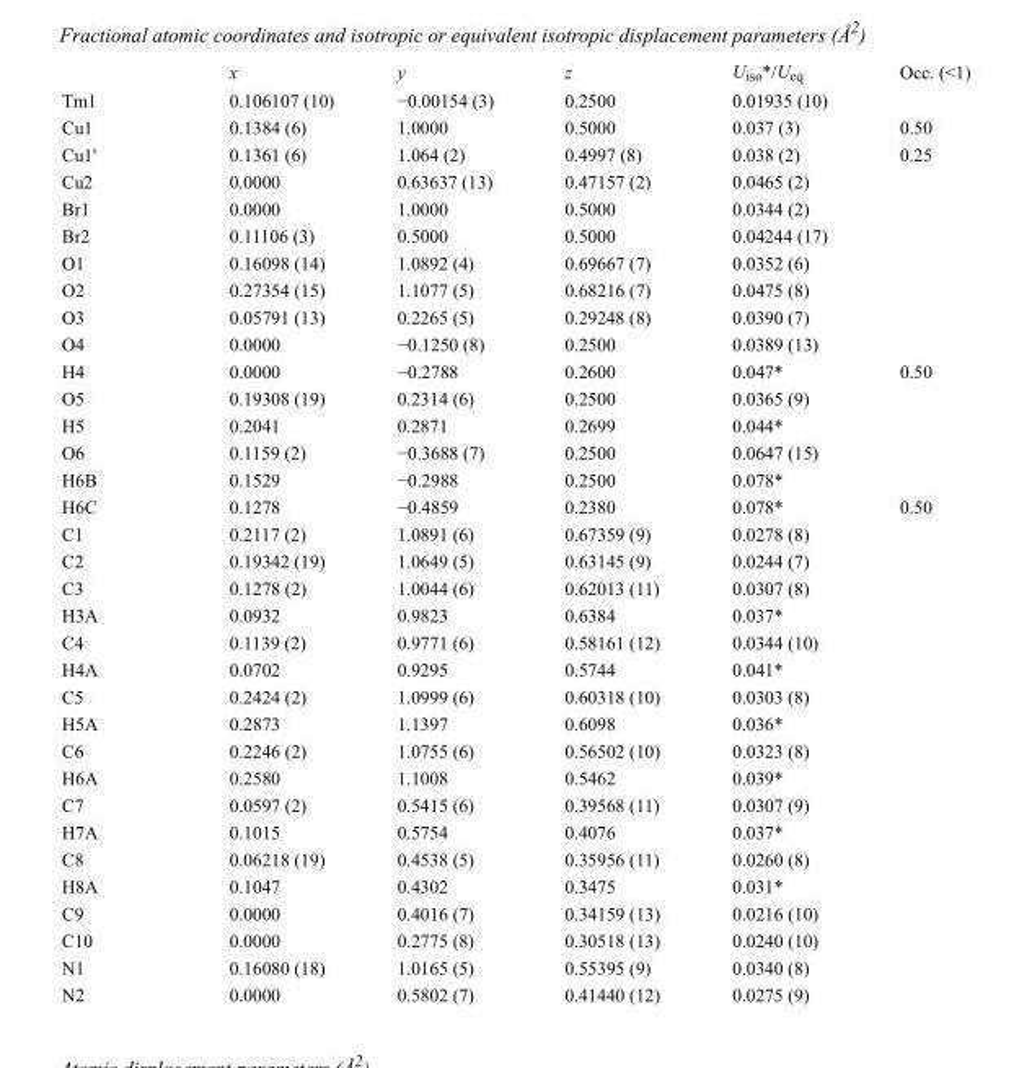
<table><thead><tr><td></td><td>x</td><td>y</td><td>z</td><td>U<sub>iso</sub>*/U<sub>eq</sub></td><td>Occ. (&lt;1)</td></tr></thead><tbody><tr><td>Tm1</td><td>0.106107 (10)</td><td>−0.00154 (3)</td><td>0.2500</td><td>0.01935 (10)</td><td></td></tr><tr><td>Cu1</td><td>0.1384 (6)</td><td>1.0000</td><td>0.5000</td><td>0.037 (3)</td><td>0.50</td></tr><tr><td>Cu1&#x27;</td><td>0.1361 (6)</td><td>1.064 (2)</td><td>0.4997 (8)</td><td>0.038 (2)</td><td>0.25</td></tr><tr><td>Cu2</td><td>0.0000</td><td>0.63637 (13)</td><td>0.47157 (2)</td><td>0.0465 (2)</td><td></td></tr><tr><td>Br1</td><td>0.0000</td><td>1.0000</td><td>0.5000</td><td>0.0344 (2)</td><td></td></tr><tr><td>Br2</td><td>0.11106 (3)</td><td>0.5000</td><td>0.5000</td><td>0.04244 (17)</td><td></td></tr><tr><td>O1</td><td>0.16098 (14)</td><td>1.0892 (4)</td><td>0.69667 (7)</td><td>0.0352 (6)</td><td></td></tr><tr><td>O2</td><td>0.27354 (15)</td><td>1.1077 (5)</td><td>0.68216 (7)</td><td>0.0475 (8)</td><td></td></tr><tr><td>O3</td><td>0.05791 (13)</td><td>0.2265 (5)</td><td>0.29248 (8)</td><td>0.0390 (7)</td><td></td></tr><tr><td>O4</td><td>0.0000</td><td>−0.1250 (8)</td><td>0.2500</td><td>0.0389 (13)</td><td></td></tr><tr><td>H4</td><td>0.0000</td><td>−0.2788</td><td>0.2600</td><td>0.047*</td><td>0.50</td></tr><tr><td>O5</td><td>0.19308 (19)</td><td>0.2314 (6)</td><td>0.2500</td><td>0.0365 (9)</td><td></td></tr><tr><td>H5</td><td>0.2041</td><td>0.2871</td><td>0.2699</td><td>0.044*</td><td></td></tr><tr><td>O6</td><td>0.1159 (2)</td><td>−0.3688 (7)</td><td>0.2500</td><td>0.0647 (15)</td><td></td></tr><tr><td>H6B</td><td>0.1529</td><td>−0.2988</td><td>0.2500</td><td>0.078*</td><td></td></tr><tr><td>H6C</td><td>0.1278</td><td>−0.4859</td><td>0.2380</td><td>0.078*</td><td>0.50</td></tr><tr><td>C1</td><td>0.2117 (2)</td><td>1.0891 (6)</td><td>0.67359 (9)</td><td>0.0278 (8)</td><td></td></tr><tr><td>C2</td><td>0.19342 (19)</td><td>1.0649 (5)</td><td>0.63145 (9)</td><td>0.0244 (7)</td><td></td></tr><tr><td>C3</td><td>0.1278 (2)</td><td>1.0044 (6)</td><td>0.62013 (11)</td><td>0.0307 (8)</td><td></td></tr><tr><td>H3A</td><td>0.0932</td><td>0.9823</td><td>0.6384</td><td>0.037*</td><td></td></tr><tr><td>C4</td><td>0.1139 (2)</td><td>0.9771 (6)</td><td>0.58161 (12)</td><td>0.0344 (10)</td><td></td></tr><tr><td>H4A</td><td>0.0702</td><td>0.9295</td><td>0.5744</td><td>0.041*</td><td></td></tr><tr><td>C5</td><td>0.2424 (2)</td><td>1.0999 (6)</td><td>0.60318 (10)</td><td>0.0303 (8)</td><td></td></tr><tr><td>H5A</td><td>0.2873</td><td>1.1397</td><td>0.6098</td><td>0.036*</td><td></td></tr><tr><td>C6</td><td>0.2246 (2)</td><td>1.0755 (6)</td><td>0.56502 (10)</td><td>0.0323 (8)</td><td></td></tr><tr><td>H6A</td><td>0.2580</td><td>1.1008</td><td>0.5462</td><td>0.039*</td><td></td></tr><tr><td>C7</td><td>0.0597 (2)</td><td>0.5415 (6)</td><td>0.39568 (11)</td><td>0.0307 (9)</td><td></td></tr><tr><td>H7A</td><td>0.1015</td><td>0.5754</td><td>0.4076</td><td>0.037*</td><td></td></tr><tr><td>C8</td><td>0.06218 (19)</td><td>0.4538 (5)</td><td>0.35956 (11)</td><td>0.0260 (8)</td><td></td></tr><tr><td>H8A</td><td>0.1047</td><td>0.4302</td><td>0.3475</td><td>0.031*</td><td></td></tr><tr><td>C9</td><td>0.0000</td><td>0.4016 (7)</td><td>0.34159 (13)</td><td>0.0216 (10)</td><td></td></tr><tr><td>C10</td><td>0.0000</td><td>0.2775 (8)</td><td>0.30518 (13)</td><td>0.0240 (10)</td><td></td></tr><tr><td>N1</td><td>0.16080 (18)</td><td>1.0165 (5)</td><td>0.55395 (9)</td><td>0.0340 (8)</td><td></td></tr><tr><td>N2</td><td>0.0000</td><td>0.5802 (7)</td><td>0.41440 (12)</td><td>0.0275 (9)</td><td></td></tr></tbody></table>